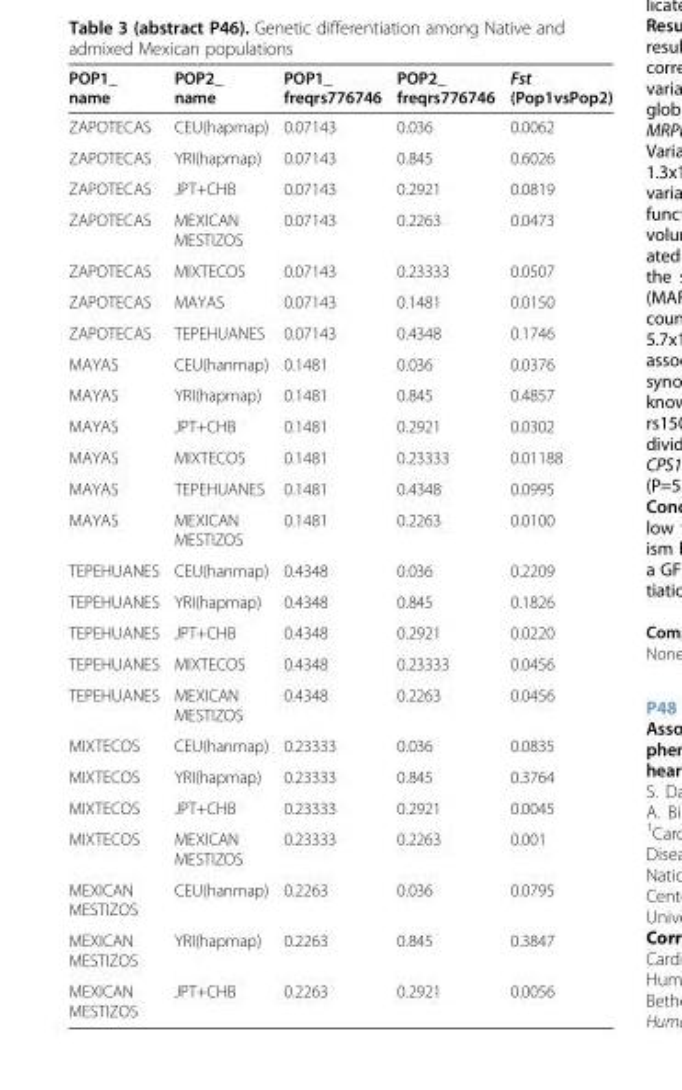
<table><thead><tr><td>POP1_ name</td><td>POP2_ name</td><td>POP1_ freqrs776746</td><td>POP2_ freqrs776746</td><td>Fst (Pop1vsPop2)</td></tr></thead><tbody><tr><td>ZAPOTECAS</td><td>CEU(hapmap)</td><td>0.07143</td><td>0.036</td><td>0.0062</td></tr><tr><td>ZAPOTECAS</td><td>YRI(hapmap)</td><td>0.07143</td><td>0.845</td><td>0.6026</td></tr><tr><td>ZAPOTECAS</td><td>JPT+CHB</td><td>0.07143</td><td>0.2921</td><td>0.0819</td></tr><tr><td>ZAPOTECAS</td><td>MEXICAN MESTIZOS</td><td>0.07143</td><td>0.2263</td><td>0.0473</td></tr><tr><td>ZAPOTECAS</td><td>MIXTECOS</td><td>0.07143</td><td>0.23333</td><td>0.0507</td></tr><tr><td>ZAPOTECAS</td><td>MAYAS</td><td>0.07143</td><td>0.1481</td><td>0.0150</td></tr><tr><td>ZAPOTECAS</td><td>TEPEHUANES</td><td>0.07143</td><td>0.4348</td><td>0.1746</td></tr><tr><td>MAYAS</td><td>CEU(hanmap)</td><td>0.1481</td><td>0.036</td><td>0.0376</td></tr><tr><td>MAYAS</td><td>YRI(hapmap)</td><td>0.1481</td><td>0.845</td><td>0.4857</td></tr><tr><td>MAYAS</td><td>JPT+CHB</td><td>0.1481</td><td>0.2921</td><td>0.0302</td></tr><tr><td>MAYAS</td><td>MIXTECOS</td><td>0.1481</td><td>0.23333</td><td>0.01188</td></tr><tr><td>MAYAS</td><td>TEPEHUANES</td><td>0.1481</td><td>0.4348</td><td>0.0995</td></tr><tr><td>MAYAS</td><td>MEXICAN MESTIZOS</td><td>0.1481</td><td>0.2263</td><td>0.0100</td></tr><tr><td>TEPEHUANES</td><td>CEU(hanmap)</td><td>0.4348</td><td>0.036</td><td>0.2209</td></tr><tr><td>TEPEHUANES</td><td>YRI(hapmap)</td><td>0.4348</td><td>0.845</td><td>0.1826</td></tr><tr><td>TEPEHUANES</td><td>JPT+CHB</td><td>0.4348</td><td>0.2921</td><td>0.0220</td></tr><tr><td>TEPEHUANES</td><td>MIXTECOS</td><td>0.4348</td><td>0.23333</td><td>0.0456</td></tr><tr><td>TEPEHUANES</td><td>MEXICAN MESTIZOS</td><td>0.4348</td><td>0.2263</td><td>0.0456</td></tr><tr><td>MIXTECOS</td><td>CEU(hanmap)</td><td>0.23333</td><td>0.036</td><td>0.0835</td></tr><tr><td>MIXTECOS</td><td>YRI(hapmap)</td><td>0.23333</td><td>0.845</td><td>0.3764</td></tr><tr><td>MIXTECOS</td><td>JPT+CHB</td><td>0.23333</td><td>0.2921</td><td>0.0045</td></tr><tr><td>MIXTECOS</td><td>MEXICAN MESTIZOS</td><td>0.23333</td><td>0.2263</td><td>0.001</td></tr><tr><td>MEXICAN MESTIZOS</td><td>CEU(hanmap)</td><td>0.2263</td><td>0.036</td><td>0.0795</td></tr><tr><td>MEXICAN MESTIZOS</td><td>YRI(hapmap)</td><td>0.2263</td><td>0.845</td><td>0.3847</td></tr><tr><td>MEXICAN MESTIZOS</td><td>JPT+CHB</td><td>0.2263</td><td>0.2921</td><td>0.0056</td></tr></tbody></table>